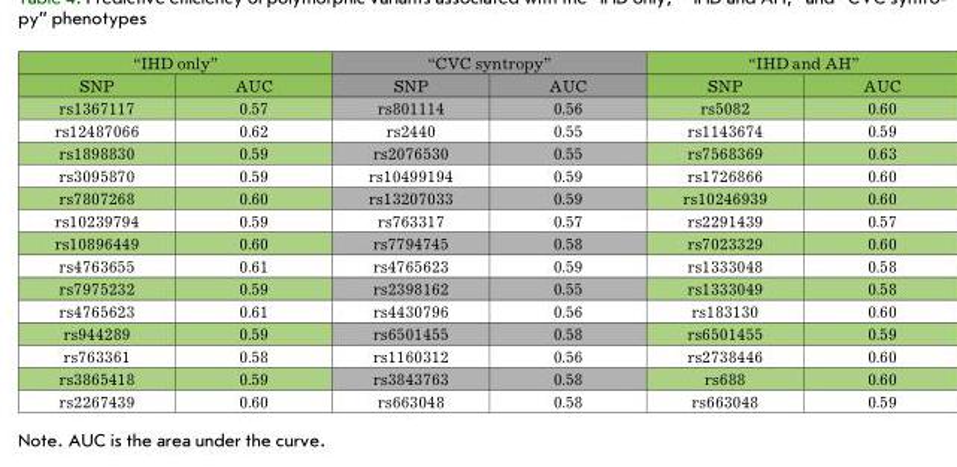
<table><thead><tr><td colspan="2">“IHD only”</td><td colspan="2">“CVC syntropy”</td><td colspan="2">“IHD and AH”</td></tr><tr><td>SNP</td><td>AUC</td><td>SNP</td><td>AUC</td><td>SNP</td><td>AUC</td></tr></thead><tbody><tr><td>rs1367117</td><td>0.57</td><td>rs801114</td><td>0.56</td><td>rs5082</td><td>0.60</td></tr><tr><td>rs12487066</td><td>0.62</td><td>rs2440</td><td>0.55</td><td>rs1143674</td><td>0.59</td></tr><tr><td>rs1898830</td><td>0.59</td><td>rs2076530</td><td>0.55</td><td>rs7568369</td><td>0.63</td></tr><tr><td>rs3095870</td><td>0.59</td><td>rs10499194</td><td>0.59</td><td>rs1726866</td><td>0.60</td></tr><tr><td>rs7807268</td><td>0.60</td><td>rs13207033</td><td>0.59</td><td>rs10246939</td><td>0.60</td></tr><tr><td>rs10239794</td><td>0.59</td><td>rs763317</td><td>0.57</td><td>rs2291439</td><td>0.57</td></tr><tr><td>rs10896449</td><td>0.60</td><td>rs7794745</td><td>0.58</td><td>rs7023329</td><td>0.60</td></tr><tr><td>rs4763655</td><td>0.61</td><td>rs4765623</td><td>0.59</td><td>rs1333048</td><td>0.58</td></tr><tr><td>rs7975232</td><td>0.59</td><td>rs2398162</td><td>0.55</td><td>rs1333049</td><td>0.58</td></tr><tr><td>rs4765623</td><td>0.61</td><td>rs4430796</td><td>0.56</td><td>rs183130</td><td>0.60</td></tr><tr><td>rs944289</td><td>0.59</td><td>rs6501455</td><td>0.58</td><td>rs6501455</td><td>0.59</td></tr><tr><td>rs763361</td><td>0.58</td><td>rs1160312</td><td>0.56</td><td>rs2738446</td><td>0.60</td></tr><tr><td>rs3865418</td><td>0.59</td><td>rs3843763</td><td>0.58</td><td>rs688</td><td>0.60</td></tr><tr><td>rs2267439</td><td>0.60</td><td>rs663048</td><td>0.58</td><td>rs663048</td><td>0.59</td></tr></tbody></table>